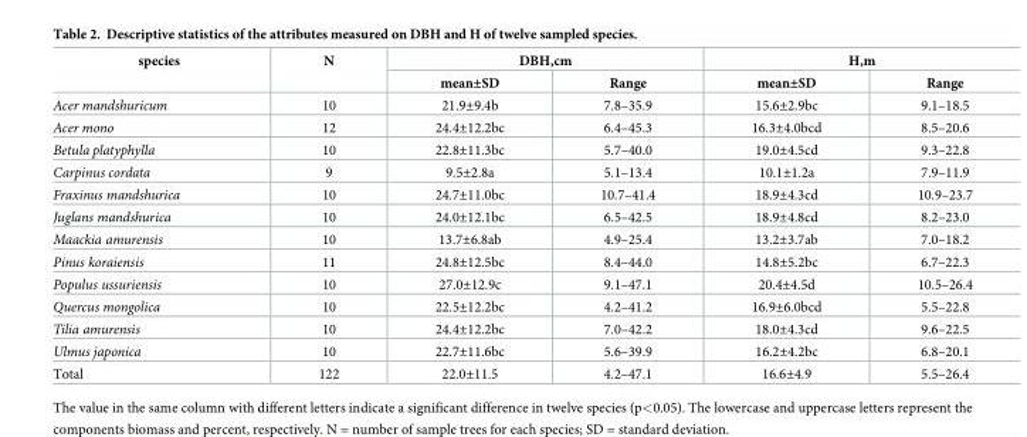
<table><thead><tr><td rowspan="2">species</td><td rowspan="2">N</td><td colspan="2">DBH,cm</td><td colspan="2">H,m</td></tr><tr><td>mean±SD</td><td>Range</td><td>mean±SD</td><td>Range</td></tr></thead><tbody><tr><td>Acer mandshuricum</td><td>10</td><td>21.9±9.4b</td><td>7.8–35.9</td><td>15.6±2.9bc</td><td>9.1–18.5</td></tr><tr><td>Acer mono</td><td>12</td><td>24.4±12.2bc</td><td>6.4–45.3</td><td>16.3±4.0bcd</td><td>8.5–20.6</td></tr><tr><td>Betula platyphylla</td><td>10</td><td>22.8±11.3bc</td><td>5.7–40.0</td><td>19.0±4.5cd</td><td>9.3–22.8</td></tr><tr><td>Carpinus cordata</td><td>9</td><td>9.5±2.8a</td><td>5.1–13.4</td><td>10.1±1.2a</td><td>7.9–11.9</td></tr><tr><td>Fraxinus mandshurica</td><td>10</td><td>24.7±11.0bc</td><td>10.7–41.4</td><td>18.9±4.3cd</td><td>10.9–23.7</td></tr><tr><td>Juglans mandshurica</td><td>10</td><td>24.0±12.1bc</td><td>6.5–42.5</td><td>18.9±4.8cd</td><td>8.2–23.0</td></tr><tr><td>Maackia amurensis</td><td>10</td><td>13.7±6.8ab</td><td>4.9–25.4</td><td>13.2±3.7ab</td><td>7.0–18.2</td></tr><tr><td>Pinus koraiensis</td><td>11</td><td>24.8±12.5bc</td><td>8.4–44.0</td><td>14.8±5.2bc</td><td>6.7–22.3</td></tr><tr><td>Populus ussuriensis</td><td>10</td><td>27.0±12.9c</td><td>9.1–47.1</td><td>20.4±4.5d</td><td>10.5–26.4</td></tr><tr><td>Quercus mongolica</td><td>10</td><td>22.5±12.2bc</td><td>4.2–41.2</td><td>16.9±6.0bcd</td><td>5.5–22.8</td></tr><tr><td>Tilia amurensis</td><td>10</td><td>24.4±12.2bc</td><td>7.0–42.2</td><td>18.0±4.3cd</td><td>9.6–22.5</td></tr><tr><td>Ulmus japonica</td><td>10</td><td>22.7±11.6bc</td><td>5.6–39.9</td><td>16.2±4.2bc</td><td>6.8–20.1</td></tr><tr><td>Total</td><td>122</td><td>22.0±11.5</td><td>4.2–47.1</td><td>16.6±4.9</td><td>5.5–26.4</td></tr></tbody></table>